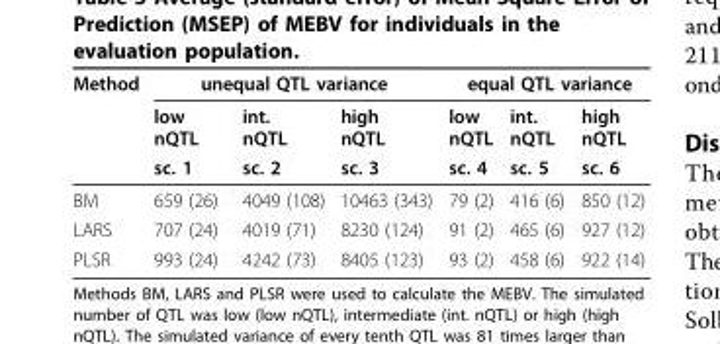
<table><thead><tr><td rowspan="3">Method</td><td colspan="3">unequal QTL variance</td><td colspan="3">equal QTL variance</td></tr><tr><td rowspan="2">low nQTL sc. 1</td><td rowspan="2">int. nQTL sc. 2</td><td rowspan="2">high nQTL sc. 3</td><td rowspan="2">low nQTL sc. 4</td><td rowspan="2">int. nQTL sc. 5</td><td rowspan="2">high nQTL sc. 6</td></tr><tr></tr></thead><tbody><tr><td>BM</td><td>659 (26)</td><td>4049 (108)</td><td>10463 (343)</td><td>79 (2)</td><td>416 (6)</td><td>850 (12)</td></tr><tr><td>LARS</td><td>707 (24)</td><td>4019 (71)</td><td>8230 (124)</td><td>91 (2)</td><td>465 (6)</td><td>927 (12)</td></tr><tr><td>PLSR</td><td>993 (24)</td><td>4242 (73)</td><td>8405 (123)</td><td>93 (2)</td><td>458 (6)</td><td>922 (14)</td></tr></tbody></table>